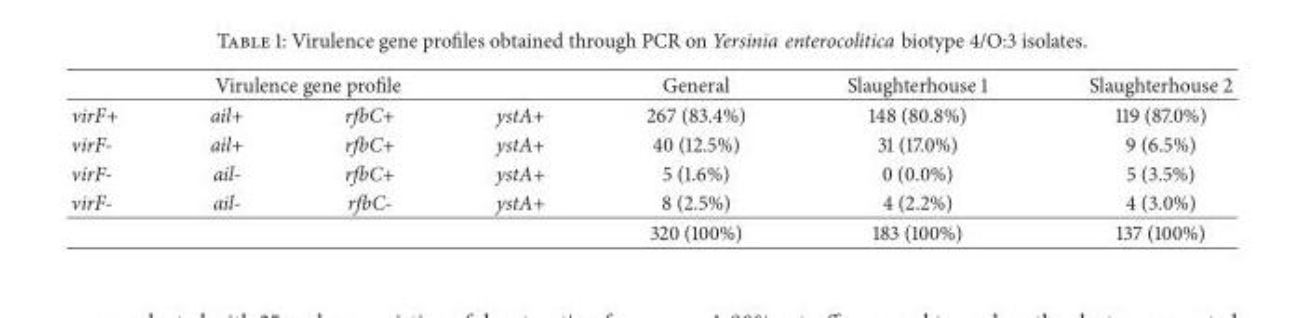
<table><thead><tr><td colspan="4">Virulence gene profile</td><td rowspan="2">General 267 (83.4%)</td><td rowspan="2">Slaughterhouse 1 148 (80.8%)</td><td rowspan="2">Slaughterhouse 2 119 (87.0%)</td></tr><tr><td>virF+</td><td>ail+</td><td>rfbC+</td><td>ystA+</td></tr></thead><tbody><tr><td>virF-</td><td>ail+</td><td>rfbC+</td><td>ystA+</td><td>40 (12.5%)</td><td>31 (17.0%)</td><td>9 (6.5%)</td></tr><tr><td>virF-</td><td>ail-</td><td>rfbC+</td><td>ystA+</td><td>5 (1.6%)</td><td>0 (0.0%)</td><td>5 (3.5%)</td></tr><tr><td rowspan="2">virF-</td><td>ail-</td><td>rfbC-</td><td>ystA+</td><td>8 (2.5%)</td><td>4 (2.2%)</td><td>4 (3.0%)</td></tr><tr><td></td><td></td><td></td><td>320 (100%)</td><td>183 (100%)</td><td>137 (100%)</td></tr></tbody></table>